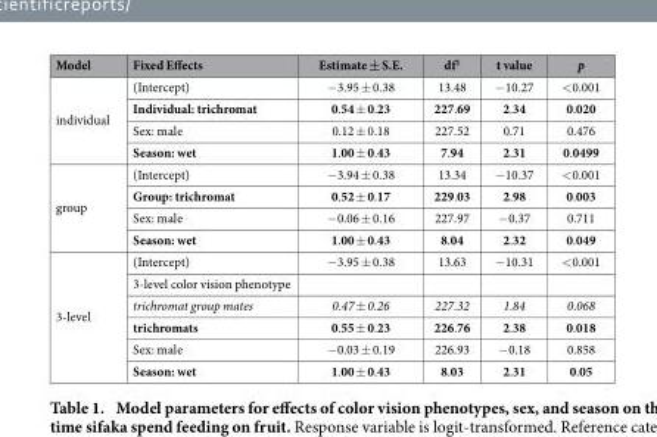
<table><thead><tr><td>Model</td><td>Fixed Effects</td><td>Estimate ± S.E.</td><td>df<sup>1</sup></td><td>t value</td><td>p</td></tr></thead><tbody><tr><td rowspan="4">individual</td><td>(Intercept)</td><td>− 3.95 ± 0.38</td><td>13.48</td><td>− 10.27</td><td>&lt; 0.001</td></tr><tr><td>Individual: trichromat</td><td>0.54 ± 0.23</td><td>227.69</td><td>2.34</td><td>0.020</td></tr><tr><td>Sex: male</td><td>0.12 ± 0.18</td><td>227.52</td><td>0.71</td><td>0.476</td></tr><tr><td>Season: wet</td><td>1.00 ± 0.43</td><td>7.94</td><td>2.31</td><td>0.0499</td></tr><tr><td rowspan="4">group</td><td>(Intercept)</td><td>− 3.94 ± 0.38</td><td>13.34</td><td>− 10.37</td><td>&lt; 0.001</td></tr><tr><td>Group: trichromat</td><td>0.52 ± 0.17</td><td>229.03</td><td>2.98</td><td>0.003</td></tr><tr><td>Sex: male</td><td>− 0.06 ± 0.16</td><td>227.97</td><td>− 0.37</td><td>0.711</td></tr><tr><td>Season: wet</td><td>1.00 ± 0.43</td><td>8.04</td><td>2.32</td><td>0.049</td></tr><tr><td rowspan="6">3-level</td><td>(Intercept)</td><td>− 3.95 ± 0.38</td><td>13.63</td><td>− 10.31</td><td>&lt; 0.001</td></tr><tr><td>3-level color vision phenotype</td><td></td><td></td><td></td><td></td></tr><tr><td>trichromat group mates</td><td>0.47 ± 0.26</td><td>227.32</td><td>1.84</td><td>0.068</td></tr><tr><td>trichromats</td><td>0.55 ± 0.23</td><td>226.76</td><td>2.38</td><td>0.018</td></tr><tr><td>Sex: male</td><td>− 0.03 ± 0.19</td><td>226.93</td><td>− 0.18</td><td>0.858</td></tr><tr><td>Season: wet</td><td>1.00 ± 0.43</td><td>8.03</td><td>2.31</td><td>0.05</td></tr></tbody></table>